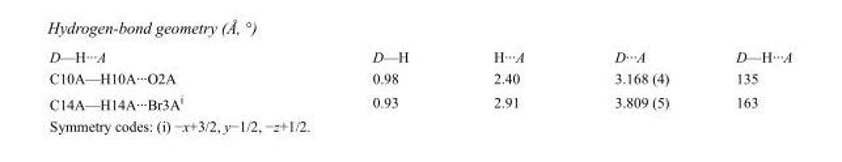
<table><tbody><tr><td>D—H···A</td><td>D—H</td><td>H···A</td><td>D···A</td><td>D—H···A</td></tr><tr><td>C10A—H10A···O2A</td><td>0.98</td><td>2.40</td><td>3.168 (4)</td><td>135</td></tr><tr><td>C14A—H14A···Br3A<sup>i</sup></td><td>0.93</td><td>2.91</td><td>3.809 (5)</td><td>163</td></tr></tbody></table>